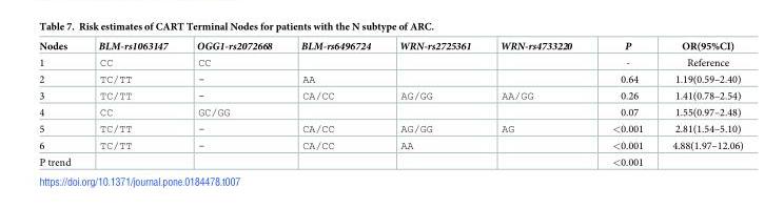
<table><thead><tr><td>Nodes</td><td>BLM-rs1063147</td><td>OGG1-rs2072668</td><td>BLM-rs6496724</td><td>WRN-rs2725361</td><td>WRN-rs4733220</td><td>P</td><td>OR(95%CI)</td></tr></thead><tbody><tr><td>1</td><td>CC</td><td>CC</td><td></td><td></td><td></td><td>-</td><td>Reference</td></tr><tr><td>2</td><td>TC/TT</td><td>-</td><td>AA</td><td></td><td></td><td>0.64</td><td>1.19(0.59–2.40)</td></tr><tr><td>3</td><td>TC/TT</td><td>-</td><td>CA/CC</td><td>AG/GG</td><td>AA/GG</td><td>0.26</td><td>1.41(0.78–2.54)</td></tr><tr><td>4</td><td>CC</td><td>GC/GG</td><td></td><td></td><td></td><td>0.07</td><td>1.55(0.97–2.48)</td></tr><tr><td>5</td><td>TC/TT</td><td>-</td><td>CA/CC</td><td>AG/GG</td><td>AG</td><td>&lt;0.001</td><td>2.81(1.54–5.10)</td></tr><tr><td>6</td><td>TC/TT</td><td>-</td><td>CA/CC</td><td>AA</td><td></td><td>&lt;0.001</td><td>4.88(1.97–12.06)</td></tr><tr><td>P trend</td><td></td><td></td><td></td><td></td><td></td><td>&lt;0.001</td><td></td></tr></tbody></table>